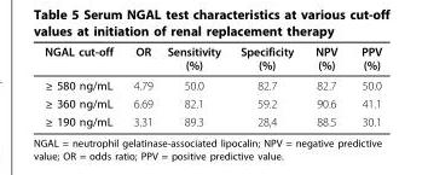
<table><thead><tr><td>NGAL cut-off</td><td>OR</td><td>Sensitivity (%)</td><td>Specificity (%)</td><td>NPV (%)</td><td>PPV (%)</td></tr></thead><tbody><tr><td>≥ 580 ng/mL</td><td>4.79</td><td>50.0</td><td>82.7</td><td>82.7</td><td>50.0</td></tr><tr><td>≥ 360 ng/mL</td><td>6.69</td><td>82.1</td><td>59.2</td><td>90.6</td><td>41.1</td></tr><tr><td>≥ 190 ng/mL</td><td>3.31</td><td>89.3</td><td>28,4</td><td>88.5</td><td>30.1</td></tr></tbody></table>